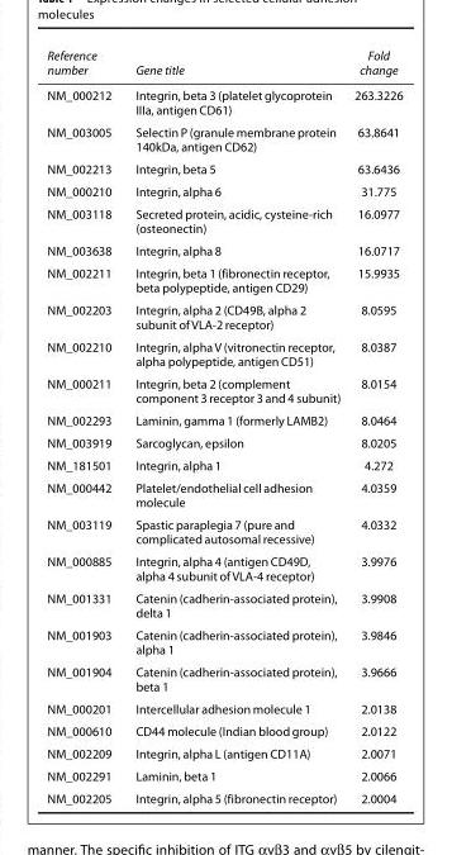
<table><thead><tr><td>Reference number</td><td>Gene title</td><td>Fold change</td></tr></thead><tbody><tr><td>NM_000212</td><td>Integrin, beta 3 (platelet glycoprotein IIIa, antigen CD61)</td><td>263.3226</td></tr><tr><td>NM_003005</td><td>Selectin P (granule membrane protein 140kDa, antigen CD62)</td><td>63.8641</td></tr><tr><td>NM_002213</td><td>Integrin, beta 5</td><td>63.6436</td></tr><tr><td>NM_000210</td><td>Integrin, alpha 6</td><td>31.775</td></tr><tr><td>NM_003118</td><td>Secreted protein, acidic, cysteine-rich (osteonectin)</td><td>16.0977</td></tr><tr><td>NM_003638</td><td>Integrin, alpha 8</td><td>16.0717</td></tr><tr><td>NM_002211</td><td>Integrin, beta 1 (fibronectin receptor, beta polypeptide, antigen CD29)</td><td>15.9935</td></tr><tr><td>NM_002203</td><td>Integrin, alpha 2 (CD49B, alpha 2 subunit of VLA-2 receptor)</td><td>8.0595</td></tr><tr><td>NM_002210</td><td>Integrin, alpha V (vitronectin receptor, alpha polypeptide, antigen CD51)</td><td>8.0387</td></tr><tr><td>NM_000211</td><td>Integrin, beta 2 (complement component 3 receptor 3 and 4 subunit)</td><td>8.0154</td></tr><tr><td>NM_002293</td><td>Laminin, gamma 1 (formerly LAMB2)</td><td>8.0464</td></tr><tr><td>NM_003919</td><td>Sarcoglycan, epsilon</td><td>8.0205</td></tr><tr><td>NM_181501</td><td>Integrin, alpha 1</td><td>4.272</td></tr><tr><td>NM_000442</td><td>Platelet/endothelial cell adhesion molecule</td><td>4.0359</td></tr><tr><td>NM_003119</td><td>Spastic paraplegia 7 (pure and complicated autosomal recessive)</td><td>4.0332</td></tr><tr><td>NM_000885</td><td>Integrin, alpha 4 (antigen CD49D, alpha 4 subunit of VLA-4 receptor)</td><td>3.9976</td></tr><tr><td>NM_001331</td><td>Catenin (cadherin-associated protein), delta 1</td><td>3.9908</td></tr><tr><td>NM_001903</td><td>Catenin (cadherin-associated protein), alpha 1</td><td>3.9846</td></tr><tr><td>NM_001904</td><td>Catenin (cadherin-associated protein), beta 1</td><td>3.9666</td></tr><tr><td>NM_000201</td><td>Intercellular adhesion molecule 1</td><td>2.0138</td></tr><tr><td>NM_000610</td><td>CD44 molecule (Indian blood group)</td><td>2.0122</td></tr><tr><td>NM_002209</td><td>Integrin, alpha L (antigen CD11A)</td><td>2.0071</td></tr><tr><td>NM_002291</td><td>Laminin, beta 1</td><td>2.0066</td></tr><tr><td>NM_002205</td><td>Integrin, alpha 5 (fibronectin receptor)</td><td>2.0004</td></tr></tbody></table>